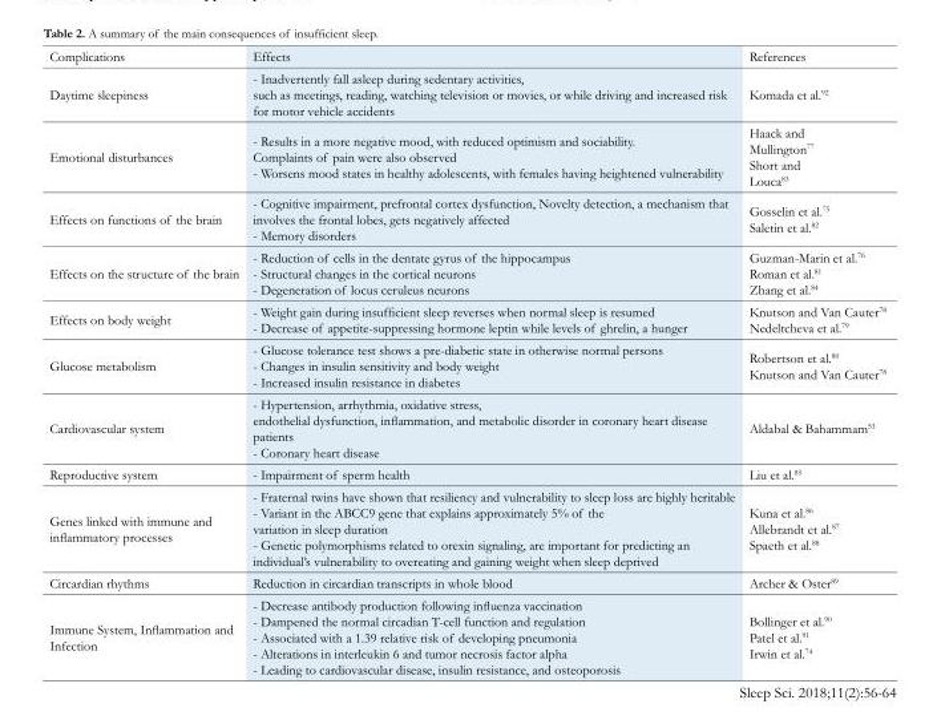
<table><thead><tr><td>Complications</td><td>Effects</td><td>References</td></tr></thead><tbody><tr><td>Daytime sleepiness</td><td>- Inadvertently fall asleep during sedentary activities, such as meetings, reading, watching television or movies, or while driving and increased risk for motor vehicle accidents</td><td>Komada et al.<sup>92</sup></td></tr><tr><td>Emotional disturbances</td><td>- Results in a more negative mood, with reduced optimism and sociability. Complaints of pain were also observed - Worsens mood states in healthy adolescents, with females having heightened vulnerability</td><td>Haack and Mullington<sup>77</sup> Short and Louca<sup>83</sup></td></tr><tr><td>Effects on functions of the brain</td><td>- Cognitive impairment, prefrontal cortex dysfunction, Novelty detection, a mechanism that involves the frontal lobes, gets negatively affected - Memory disorders</td><td>Gosselin et al.<sup>75</sup> Saletin et al.<sup>82</sup></td></tr><tr><td>Effects on the structure of the brain</td><td>- Reduction of cells in the dentate gyrus of the hippocampus - Structural changes in the cortical neurons - Degeneration of locus ceruleus neurons</td><td>Guzman-Marin et al.<sup>76</sup> Roman et al.<sup>81</sup> Zhang et al.<sup>84</sup></td></tr><tr><td>Effects on body weight</td><td>- Weight gain during insufficient sleep reverses when normal sleep is resumed - Decrease of appetite-suppressing hormone leptin while levels of ghrelin, a hunger</td><td>Knutson and Van Cauter<sup>78</sup> Nedeltcheva et al.<sup>79</sup></td></tr><tr><td>Glucose metabolism</td><td>- Glucose tolerance test shows a pre-diabetic state in otherwise normal persons - Changes in insulin sensitivity and body weight - Increased insulin resistance in diabetes</td><td>Robertson et al.<sup>80</sup> Knutson and Van Cauter<sup>78</sup></td></tr><tr><td>Cardiovascular system</td><td>- Hypertension, arrhythmia, oxidative stress, endothelial dysfunction, inflammation, and metabolic disorder in coronary heart disease patients - Coronary heart disease</td><td>Aldabal &amp; Bahammam<sup>53</sup></td></tr><tr><td>Reproductive system</td><td>- Impairment of sperm health</td><td>Liu et al.<sup>85</sup></td></tr><tr><td>Genes linked with immune and inflammatory processes</td><td>- Fraternal twins have shown that resiliency and vulnerability to sleep loss are highly heritable - Variant in the ABCC9 gene that explains approximately 5% of the variation in sleep duration - Genetic polymorphisms related to orexin signaling, are important for predicting an individual’s vulnerability to overeating and gaining weight when sleep deprived</td><td>Kuna et al.<sup>86</sup> Allebrandt et al.<sup>87</sup> Spaeth et al.<sup>88</sup></td></tr><tr><td>Circardian rhythms</td><td>Reduction in circardian transcripts in whole blood</td><td>Archer &amp; Oster<sup>89</sup></td></tr><tr><td>Immune System, Inflammation and Infection</td><td>- Decrease antibody production following influenza vaccination - Dampened the normal circadian T-cell function and regulation - Associated with a 1.39 relative risk of developing pneumonia - Alterations in interleukin 6 and tumor necrosis factor alpha - Leading to cardiovascular disease, insulin resistance, and osteoporosis</td><td>Bollinger et al.<sup>90</sup> Patel et al.<sup>91</sup> Irwin et al.<sup>74</sup></td></tr></tbody></table>